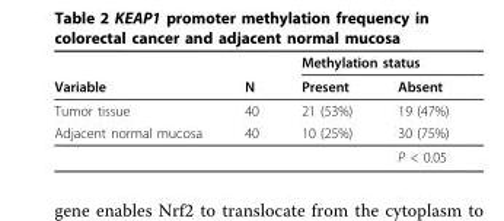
<table><thead><tr><td rowspan="2">Variable</td><td rowspan="2">N</td><td colspan="2">Methylation status</td></tr><tr><td>Present</td><td>Absent</td></tr></thead><tbody><tr><td>Tumor tissue</td><td>40</td><td>21 (53%)</td><td>19 (47%)</td></tr><tr><td rowspan="2">Adjacent normal mucosa</td><td>40</td><td>10 (25%)</td><td>30 (75%)</td></tr><tr><td></td><td></td><td>P &lt; 0.05</td></tr></tbody></table>